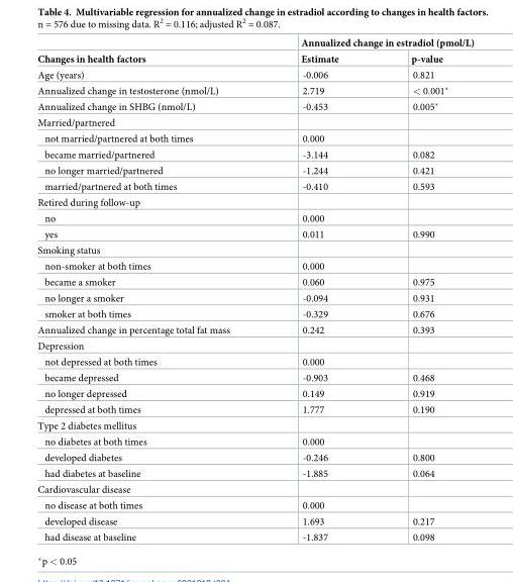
<table><thead><tr><td rowspan="2">Changes in health factors</td><td colspan="2">Annualized change in estradiol (pmol/L)</td></tr><tr><td>Estimate</td><td>p-value</td></tr></thead><tbody><tr><td>Age (years)</td><td>-0.006</td><td>0.821</td></tr><tr><td>Annualized change in testosterone (nmol/L)</td><td>2.719</td><td>&lt; 0.001*</td></tr><tr><td>Annualized change in SHBG (nmol/L)</td><td>-0.453</td><td>0.005*</td></tr><tr><td colspan="3">Married/partnered</td></tr><tr><td>not married/partnered at both times</td><td>0.000</td><td></td></tr><tr><td>became married/partnered</td><td>-3.144</td><td>0.082</td></tr><tr><td>no longer married/partnered</td><td>-1.244</td><td>0.421</td></tr><tr><td>married/partnered at both times</td><td>-0.410</td><td>0.593</td></tr><tr><td colspan="3">Retired during follow-up</td></tr><tr><td>no</td><td>0.000</td><td></td></tr><tr><td>yes</td><td>0.011</td><td>0.990</td></tr><tr><td colspan="3">Smoking status</td></tr><tr><td>non-smoker at both times</td><td>0.000</td><td></td></tr><tr><td>became a smoker</td><td>0.060</td><td>0.975</td></tr><tr><td>no longer a smoker</td><td>-0.094</td><td>0.931</td></tr><tr><td>smoker at both times</td><td>-0.329</td><td>0.676</td></tr><tr><td>Annualized change in percentage total fat mass</td><td>0.242</td><td>0.393</td></tr><tr><td colspan="3">Depression</td></tr><tr><td>not depressed at both times</td><td>0.000</td><td></td></tr><tr><td>became depressed</td><td>-0.903</td><td>0.468</td></tr><tr><td>no longer depressed</td><td>0.149</td><td>0.919</td></tr><tr><td>depressed at both times</td><td>1.777</td><td>0.190</td></tr><tr><td colspan="3">Type 2 diabetes mellitus</td></tr><tr><td>no diabetes at both times</td><td>0.000</td><td></td></tr><tr><td>developed diabetes</td><td>-0.246</td><td>0.800</td></tr><tr><td>had diabetes at baseline</td><td>-1.885</td><td>0.064</td></tr><tr><td colspan="3">Cardiovascular disease</td></tr><tr><td>no disease at both times</td><td>0.000</td><td></td></tr><tr><td>developed disease</td><td>1.693</td><td>0.217</td></tr><tr><td>had disease at baseline</td><td>-1.837</td><td>0.098</td></tr></tbody></table>